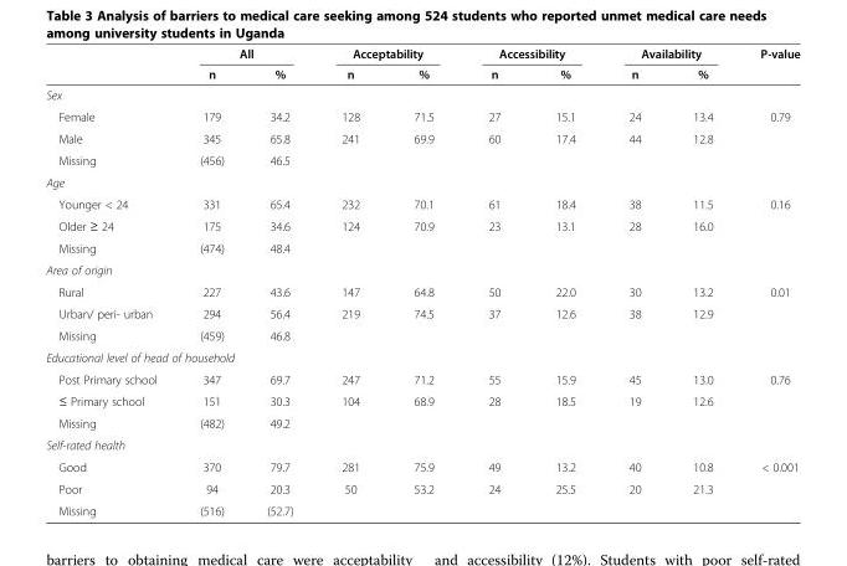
<table><thead><tr><td rowspan="2"></td><td colspan="2">All</td><td colspan="2">Acceptability</td><td colspan="2">Accessibility</td><td colspan="2">Availability</td><td rowspan="2">P-value</td></tr><tr><td>n</td><td>%</td><td>n</td><td>%</td><td>n</td><td>%</td><td>n</td><td>%</td></tr></thead><tbody><tr><td colspan="10">Sex</td></tr><tr><td>Female</td><td>179</td><td>34.2</td><td>128</td><td>71.5</td><td>27</td><td>15.1</td><td>24</td><td>13.4</td><td>0.79</td></tr><tr><td>Male</td><td>345</td><td>65.8</td><td>241</td><td>69.9</td><td>60</td><td>17.4</td><td>44</td><td>12.8</td><td></td></tr><tr><td>Missing</td><td>(456)</td><td>46.5</td><td></td><td></td><td></td><td></td><td></td><td></td><td></td></tr><tr><td colspan="10">Age</td></tr><tr><td>Younger &lt; 24</td><td>331</td><td>65.4</td><td>232</td><td>70.1</td><td>61</td><td>18.4</td><td>38</td><td>11.5</td><td>0.16</td></tr><tr><td>Older ≥ 24</td><td>175</td><td>34.6</td><td>124</td><td>70.9</td><td>23</td><td>13.1</td><td>28</td><td>16.0</td><td></td></tr><tr><td>Missing</td><td>(474)</td><td>48.4</td><td></td><td></td><td></td><td></td><td></td><td></td><td></td></tr><tr><td colspan="10">Area of origin</td></tr><tr><td>Rural</td><td>227</td><td>43.6</td><td>147</td><td>64.8</td><td>50</td><td>22.0</td><td>30</td><td>13.2</td><td>0.01</td></tr><tr><td>Urban/ peri- urban</td><td>294</td><td>56.4</td><td>219</td><td>74.5</td><td>37</td><td>12.6</td><td>38</td><td>12.9</td><td></td></tr><tr><td>Missing</td><td>(459)</td><td>46.8</td><td></td><td></td><td></td><td></td><td></td><td></td><td></td></tr><tr><td colspan="10">Educational level of head of household</td></tr><tr><td>Post Primary school</td><td>347</td><td>69.7</td><td>247</td><td>71.2</td><td>55</td><td>15.9</td><td>45</td><td>13.0</td><td>0.76</td></tr><tr><td>≤ Primary school</td><td>151</td><td>30.3</td><td>104</td><td>68.9</td><td>28</td><td>18.5</td><td>19</td><td>12.6</td><td></td></tr><tr><td>Missing</td><td>(482)</td><td>49.2</td><td></td><td></td><td></td><td></td><td></td><td></td><td></td></tr><tr><td colspan="10">Self-rated health</td></tr><tr><td>Good</td><td>370</td><td>79.7</td><td>281</td><td>75.9</td><td>49</td><td>13.2</td><td>40</td><td>10.8</td><td>&lt; 0.001</td></tr><tr><td>Poor</td><td>94</td><td>20.3</td><td>50</td><td>53.2</td><td>24</td><td>25.5</td><td>20</td><td>21.3</td><td></td></tr><tr><td>Missing</td><td>(516)</td><td>(52.7)</td><td></td><td></td><td></td><td></td><td></td><td></td><td></td></tr></tbody></table>